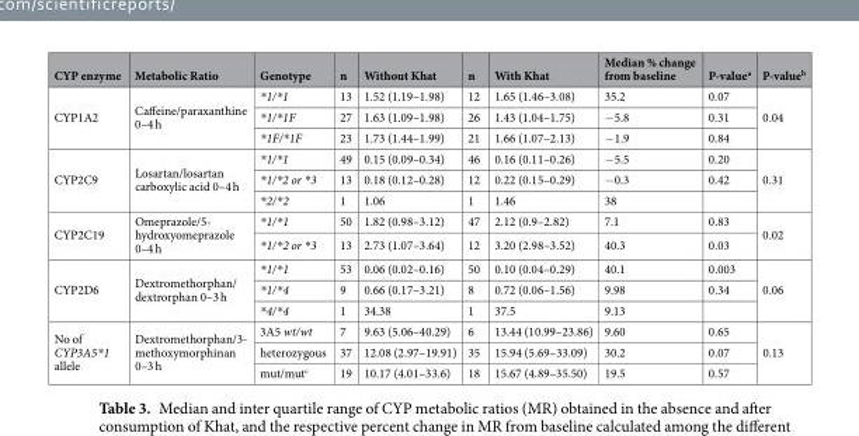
<table><thead><tr><td>CYP enzyme</td><td>Metabolic Ratio</td><td>Genotype</td><td>n</td><td>Without Khat</td><td>n</td><td>With Khat</td><td>Median % change from baseline</td><td>P-value<sup>a</sup></td><td>P-value<sup>b</sup></td></tr></thead><tbody><tr><td rowspan="3">CYP1A2</td><td rowspan="3">Caffeine/paraxanthine 0–4 h</td><td>*1/*1</td><td>13</td><td>1.52 (1.19–1.98)</td><td>12</td><td>1.65 (1.46–3.08)</td><td>35.2</td><td>0.07</td><td rowspan="3">0.04</td></tr><tr><td>*1/*1F</td><td>27</td><td>1.63 (1.09–1.98)</td><td>26</td><td>1.43 (1.04–1.75)</td><td>−5.8</td><td>0.31</td></tr><tr><td>*1F/*1F</td><td>23</td><td>1.73 (1.44–1.99)</td><td>21</td><td>1.66 (1.07–2.13)</td><td>−1.9</td><td>0.84</td></tr><tr><td rowspan="3">CYP2C9</td><td rowspan="3">Losartan/losartan carboxylic acid 0–4 h</td><td>*1/*1</td><td>49</td><td>0.15 (0.09–0.34)</td><td>46</td><td>0.16 (0.11–0.26)</td><td>−5.5</td><td>0.20</td><td rowspan="3">0.31</td></tr><tr><td>*1/*2 or *3</td><td>13</td><td>0.18 (0.12–0.28)</td><td>12</td><td>0.22 (0.15–0.29)</td><td>−0.3</td><td>0.42</td></tr><tr><td>*2/*2</td><td>1</td><td>1.06</td><td>1</td><td>1.46</td><td>38</td><td></td></tr><tr><td rowspan="2">CYP2C19</td><td rowspan="2">Omeprazole/5- hydroxyomeprazole 0–4 h</td><td>*1/*1</td><td>50</td><td>1.82 (0.98–3.12)</td><td>47</td><td>2.12 (0.9–2.82)</td><td>7.1</td><td>0.83</td><td rowspan="2">0.02</td></tr><tr><td>*1/*2 or *3</td><td>13</td><td>2.73 (1.07–3.64)</td><td>12</td><td>3.20 (2.98–3.52)</td><td>40.3</td><td>0.03</td></tr><tr><td rowspan="3">CYP2D6</td><td rowspan="3">Dextromethorphan/ dextrorphan 0–3 h</td><td>*1/*1</td><td>53</td><td>0.06 (0.02–0.16)</td><td>50</td><td>0.10 (0.04–0.29)</td><td>40.1</td><td>0.003</td><td rowspan="3">0.06</td></tr><tr><td>*1/*4</td><td>9</td><td>0.66 (0.17–3.21)</td><td>8</td><td>0.72 (0.06–1.56)</td><td>9.98</td><td>0.34</td></tr><tr><td>*4/*4</td><td>1</td><td>34.38</td><td>1</td><td>37.5</td><td>9.13</td><td></td></tr><tr><td rowspan="3">No of CYP3A5*1 allele</td><td rowspan="3">Dextromethorphan/3- methoxymorphinan 0–3 h</td><td>3A5 wt/wt</td><td>7</td><td>9.63 (5.06–40.29)</td><td>6</td><td>13.44 (10.99–23.86)</td><td>9.60</td><td>0.65</td><td rowspan="3">0.13</td></tr><tr><td>heterozygous</td><td>37</td><td>12.08 (2.97–19.91)</td><td>35</td><td>15.94 (5.69–33.09)</td><td>30.2</td><td>0.07</td></tr><tr><td>mut/mut<sup>c</sup></td><td>19</td><td>10.17 (4.01–33.6)</td><td>18</td><td>15.67 (4.89–35.50)</td><td>19.5</td><td>0.57</td></tr></tbody></table>